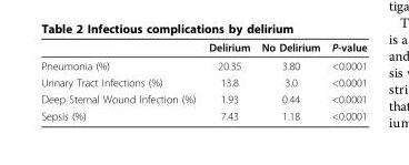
<table><thead><tr><td></td><td>Delirium</td><td>No Delirium</td><td>P-value</td></tr></thead><tbody><tr><td>Pneumonia (%)</td><td>20.35</td><td>3.80</td><td>&lt;0.0001</td></tr><tr><td>Urinary Tract Infections (%)</td><td>13.8</td><td>3.0</td><td>&lt;0.0001</td></tr><tr><td>Deep Sternal Wound Infection (%)</td><td>1.93</td><td>0.44</td><td>&lt;0.0001</td></tr><tr><td>Sepsis (%)</td><td>7.43</td><td>1.18</td><td>&lt;0.0001</td></tr></tbody></table>